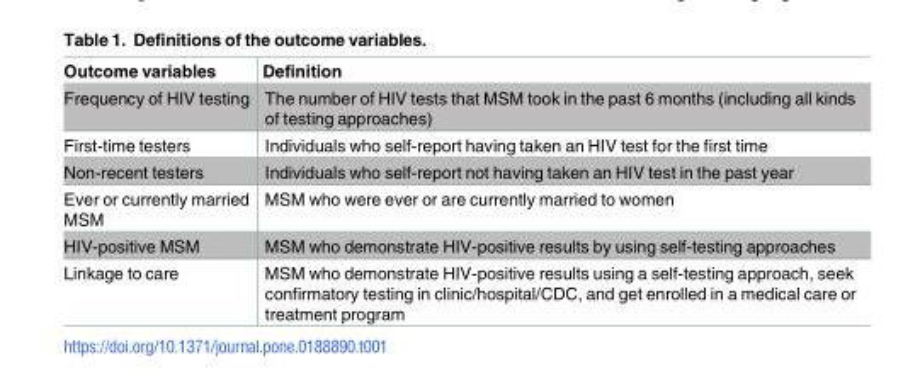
<table><thead><tr><td>Outcome variables</td><td>Definition</td></tr></thead><tbody><tr><td>Frequency of HIV testing</td><td>The number of HIV tests that MSM took in the past 6 months (including all kinds of testing approaches)</td></tr><tr><td>First-time testers</td><td>Individuals who self-report having taken an HIV test for the first time</td></tr><tr><td>Non-recent testers</td><td>Individuals who self-report not having taken an HIV test in the past year</td></tr><tr><td>Ever or currently married MSM</td><td>MSM who were ever or are currently married to women</td></tr><tr><td>HIV-positive MSM</td><td>MSM who demonstrate HIV-positive results by using self-testing approaches</td></tr><tr><td>Linkage to care</td><td>MSM who demonstrate HIV-positive results using a self-testing approach, seek confirmatory testing in clinic/hospital/CDC, and get enrolled in a medical care or treatment program</td></tr></tbody></table>